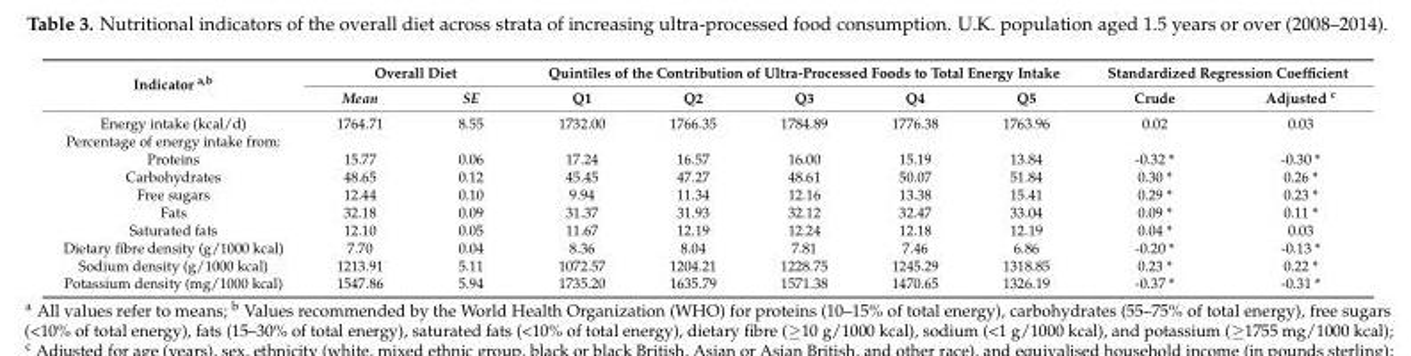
<table><thead><tr><td rowspan="2">Indicator <sup>a,b</sup></td><td colspan="2">Overall Diet</td><td colspan="5">Quintiles of the Contribution of Ultra-Processed Foods to Total Energy Intake</td><td colspan="2">Standardized Regression Coefficient</td></tr><tr><td>Mean</td><td>SE</td><td>Q1</td><td>Q2</td><td>Q3</td><td>Q4</td><td>Q5</td><td>Crude</td><td>Adjusted <sup>c</sup></td></tr></thead><tbody><tr><td>Energy intake (kcal/d)</td><td>1764.71</td><td>8.55</td><td>1732.00</td><td>1766.35</td><td>1784.89</td><td>1776.38</td><td>1763.96</td><td>0.02</td><td>0.03</td></tr><tr><td colspan="10">Percentage of energy intake from:</td></tr><tr><td>Proteins</td><td>15.77</td><td>0.06</td><td>17.24</td><td>16.57</td><td>16.00</td><td>15.19</td><td>13.84</td><td>-0.32 *</td><td>-0.30 *</td></tr><tr><td>Carbohydrates</td><td>48.65</td><td>0.12</td><td>45.45</td><td>47.27</td><td>48.61</td><td>50.07</td><td>51.84</td><td>0.30 *</td><td>0.26 *</td></tr><tr><td>Free sugars</td><td>12.44</td><td>0.10</td><td>9.94</td><td>11.34</td><td>12.16</td><td>13.38</td><td>15.41</td><td>0.29 *</td><td>0.23 *</td></tr><tr><td>Fats</td><td>32.18</td><td>0.09</td><td>31.37</td><td>31.93</td><td>32.12</td><td>32.47</td><td>33.04</td><td>0.09 *</td><td>0.11 *</td></tr><tr><td>Saturated fats</td><td>12.10</td><td>0.05</td><td>11.67</td><td>12.19</td><td>12.24</td><td>12.18</td><td>12.19</td><td>0.04 *</td><td>0.03</td></tr><tr><td>Dietary fibre density (g/1000 kcal)</td><td>7.70</td><td>0.04</td><td>8.36</td><td>8.04</td><td>7.81</td><td>7.46</td><td>6.86</td><td>-0.20 *</td><td>-0.13 *</td></tr><tr><td>Sodium density (g/1000 kcal)</td><td>1213.91</td><td>5.11</td><td>1072.57</td><td>1204.21</td><td>1228.75</td><td>1245.29</td><td>1318.85</td><td>0.23 *</td><td>0.22 *</td></tr><tr><td>Potassium density (mg/1000 kcal)</td><td>1547.86</td><td>5.94</td><td>1735.20</td><td>1635.79</td><td>1571.38</td><td>1470.65</td><td>1326.19</td><td>-0.37 *</td><td>-0.31 *</td></tr></tbody></table>